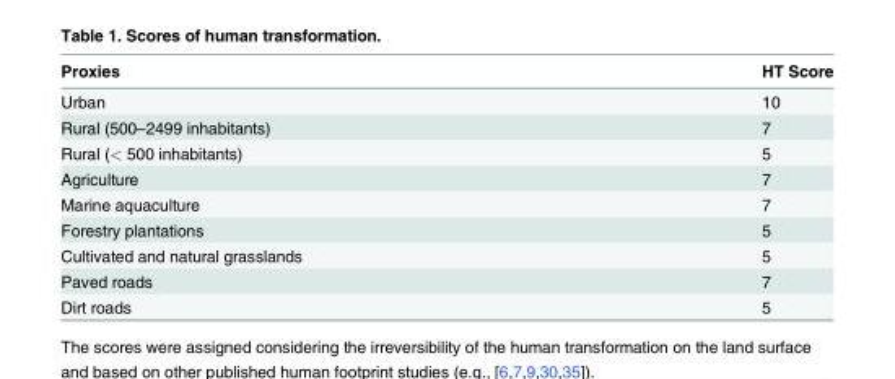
<table><thead><tr><td>Proxies</td><td>HT Score</td></tr></thead><tbody><tr><td>Urban</td><td>10</td></tr><tr><td>Rural (500–2499 inhabitants)</td><td>7</td></tr><tr><td>Rural (&lt; 500 inhabitants)</td><td>5</td></tr><tr><td>Agriculture</td><td>7</td></tr><tr><td>Marine aquaculture</td><td>7</td></tr><tr><td>Forestry plantations</td><td>5</td></tr><tr><td>Cultivated and natural grasslands</td><td>5</td></tr><tr><td>Paved roads</td><td>7</td></tr><tr><td>Dirt roads</td><td>5</td></tr></tbody></table>